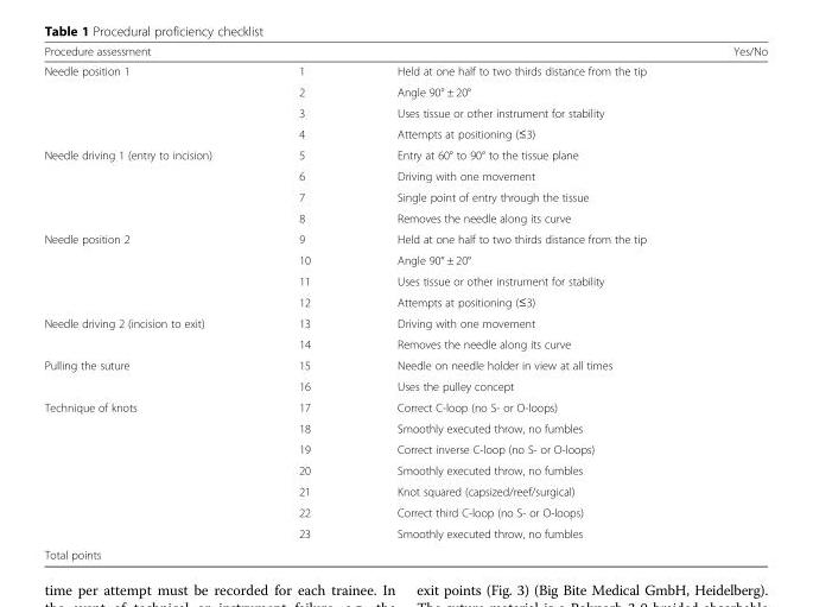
<table><thead><tr><td colspan="3">Procedure assessment</td><td rowspan="2">Yes/No</td></tr><tr><td>Needle position 1</td><td>1</td><td>Held at one half to two thirds distance from the tip</td></tr></thead><tbody><tr><td></td><td>2</td><td>Angle 90° ± 20°</td><td></td></tr><tr><td></td><td>3</td><td>Uses tissue or other instrument for stability</td><td></td></tr><tr><td></td><td>4</td><td>Attempts at positioning (≤3)</td><td></td></tr><tr><td rowspan="4">Needle driving 1 (entry to incision)</td><td>5</td><td>Entry at 60° to 90° to the tissue plane</td><td></td></tr><tr><td>6</td><td>Driving with one movement</td><td></td></tr><tr><td>7</td><td>Single point of entry through the tissue</td><td></td></tr><tr><td>8</td><td>Removes the needle along its curve</td><td></td></tr><tr><td rowspan="4">Needle position 2</td><td>9</td><td>Held at one half to two thirds distance from the tip</td><td></td></tr><tr><td>10</td><td>Angle 90° ± 20°</td><td></td></tr><tr><td>11</td><td>Uses tissue or other instrument for stability</td><td></td></tr><tr><td>12</td><td>Attempts at positioning (≤3)</td><td></td></tr><tr><td rowspan="2">Needle driving 2 (incision to exit)</td><td>13</td><td>Driving with one movement</td><td></td></tr><tr><td>14</td><td>Removes the needle along its curve</td><td></td></tr><tr><td rowspan="2">Pulling the suture</td><td>15</td><td>Needle on needle holder in view at all times</td><td></td></tr><tr><td>16</td><td>Uses the pulley concept</td><td></td></tr><tr><td rowspan="7">Technique of knots</td><td>17</td><td>Correct C-loop (no S- or O-loops)</td><td></td></tr><tr><td>18</td><td>Smoothly executed throw, no fumbles</td><td></td></tr><tr><td>19</td><td>Correct inverse C-loop (no S- or O-loops)</td><td></td></tr><tr><td>20</td><td>Smoothly executed throw, no fumbles</td><td></td></tr><tr><td>21</td><td>Knot squared (capsized/reef/surgical)</td><td></td></tr><tr><td>22</td><td>Correct third C-loop (no S- or O-loops)</td><td></td></tr><tr><td>23</td><td>Smoothly executed throw, no fumbles</td><td></td></tr><tr><td colspan="4">Total points</td></tr></tbody></table>